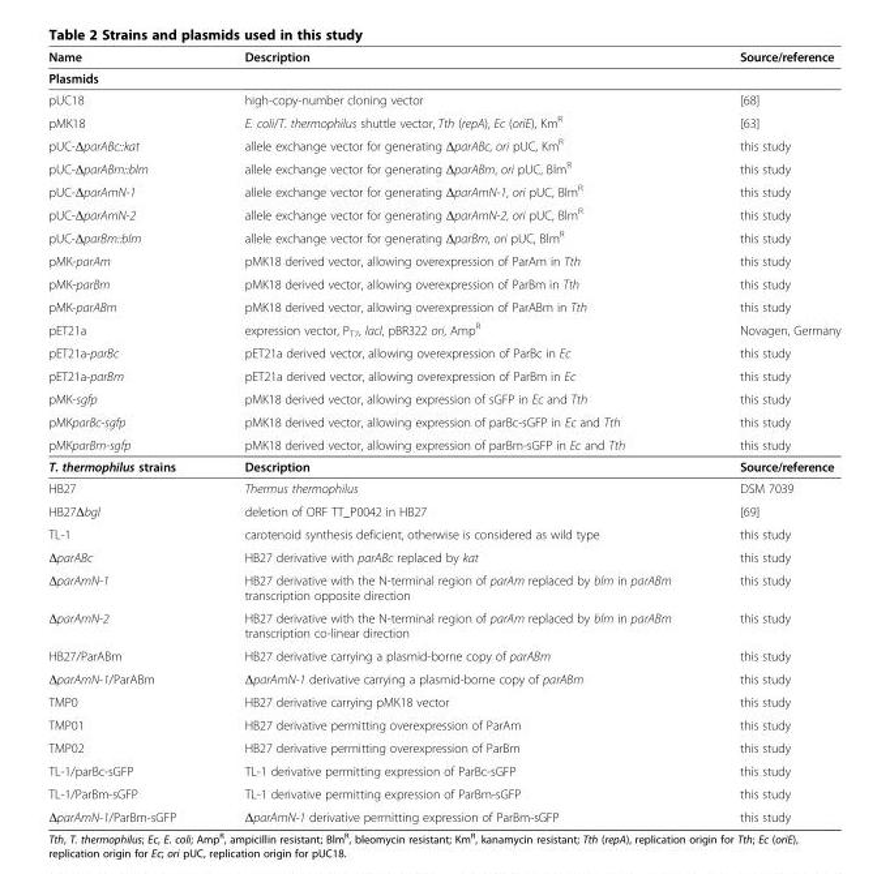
<table><thead><tr><td>Name</td><td>Description</td><td>Source/reference</td></tr></thead><tbody><tr><td colspan="3">Plasmids</td></tr><tr><td>pUC18</td><td>high-copy-number cloning vector</td><td>[68]</td></tr><tr><td>pMK18</td><td>E. coli/T. thermophilus shuttle vector, Tth (repA), Ec (oriE), Km<sup>R</sup></td><td>[63]</td></tr><tr><td>pUC-ΔparABc::kat</td><td>allele exchange vector for generating ΔparABc, ori pUC, Km<sup>R</sup></td><td>this study</td></tr><tr><td>pUC-ΔparABm::blm</td><td>allele exchange vector for generating ΔparABm, ori pUC, Blm<sup>R</sup></td><td>this study</td></tr><tr><td>pUC-ΔparAmN-1</td><td>allele exchange vector for generating ΔparAmN-1, ori pUC, Blm<sup>R</sup></td><td>this study</td></tr><tr><td>pUC-ΔparAmN-2</td><td>allele exchange vector for generating ΔparAmN-2, ori pUC, Blm<sup>R</sup></td><td>this study</td></tr><tr><td>pUC-ΔparBm::blm</td><td>allele exchange vector for generating ΔparBm, ori pUC, Blm<sup>R</sup></td><td>this study</td></tr><tr><td>pMK-parAm</td><td>pMK18 derived vector, allowing overexpression of ParAm in Tth</td><td>this study</td></tr><tr><td>pMK-parBm</td><td>pMK18 derived vector, allowing overexpression of ParBm in Tth</td><td>this study</td></tr><tr><td>pMK-parABm</td><td>pMK18 derived vector, allowing overexpression of ParABm in Tth</td><td>this study</td></tr><tr><td>pET21a</td><td>expression vector, P<sub>T7</sub>, lacI, pBR322 ori, Amp<sup>R</sup></td><td>Novagen, Germany</td></tr><tr><td>pET21a-parBc</td><td>pET21a derived vector, allowing overexpression of ParBc in Ec</td><td>this study</td></tr><tr><td>pET21a-parBm</td><td>pET21a derived vector, allowing overexpression of ParBm in Ec</td><td>this study</td></tr><tr><td>pMK-sgfp</td><td>pMK18 derived vector, allowing expression of sGFP in Ec and Tth</td><td>this study</td></tr><tr><td>pMKparBc-sgfp</td><td>pMK18 derived vector, allowing expression of parBc-sGFP in Ec and Tth</td><td>this study</td></tr><tr><td>pMKparBm-sgfp</td><td>pMK18 derived vector, allowing expression of parBm-sGFP in Ec and Tth</td><td>this study</td></tr><tr><td>T. thermophilus strains</td><td>Description</td><td>Source/reference</td></tr><tr><td>HB27</td><td>Thermus thermophilus</td><td>DSM 7039</td></tr><tr><td>HB27Δbgl</td><td>deletion of ORF TT_P0042 in HB27</td><td>[69]</td></tr><tr><td>TL-1</td><td>carotenoid synthesis deficient, otherwise is considered as wild type</td><td>this study</td></tr><tr><td>ΔparABc</td><td>HB27 derivative with parABc replaced by kat</td><td>this study</td></tr><tr><td>ΔparAmN-1</td><td>HB27 derivative with the N-terminal region of parAm replaced by blm in parABm transcription opposite direction</td><td>this study</td></tr><tr><td>ΔparAmN-2</td><td>HB27 derivative with the N-terminal region of parAm replaced by blm in parABm transcription co-linear direction</td><td>this study</td></tr><tr><td>HB27/ParABm</td><td>HB27 derivative carrying a plasmid-borne copy of parABm</td><td>this study</td></tr><tr><td>ΔparAmN-1/ParABm</td><td>ΔparAmN-1 derivative carrying a plasmid-borne copy of parABm</td><td>this study</td></tr><tr><td>TMP0</td><td>HB27 derivative carrying pMK18 vector</td><td>this study</td></tr><tr><td>TMP01</td><td>HB27 derivative permitting overexpression of ParAm</td><td>this study</td></tr><tr><td>TMP02</td><td>HB27 derivative permitting overexpression of ParBm</td><td>this study</td></tr><tr><td>TL-1/parBc-sGFP</td><td>TL-1 derivative permitting expression of ParBc-sGFP</td><td>this study</td></tr><tr><td>TL-1/ParBm-sGFP</td><td>TL-1 derivative permitting expression of ParBm-sGFP</td><td>this study</td></tr><tr><td>ΔparAmN-1/ParBm-sGFP</td><td>ΔparAmN-1 derivative permitting expression of ParBm-sGFP</td><td>this study</td></tr></tbody></table>